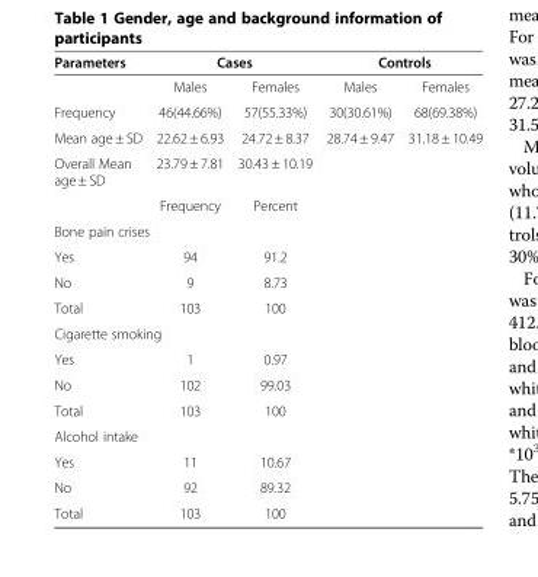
<table><thead><tr><td rowspan="2">Parameters</td><td colspan="2">Cases</td><td colspan="2">Controls</td></tr><tr><td>Males</td><td>Females</td><td>Males</td><td>Females</td></tr></thead><tbody><tr><td>Frequency</td><td>46(44.66%)</td><td>57(55.33%)</td><td>30(30.61%)</td><td>68(69.38%)</td></tr><tr><td>Mean age ± SD</td><td>22.62 ± 6.93</td><td>24.72 ± 8.37</td><td>28.74 ± 9.47</td><td>31.18 ± 10.49</td></tr><tr><td rowspan="2">Overall Mean age ± SD</td><td>23.79 ± 7.81</td><td>30.43 ± 10.19</td><td></td><td></td></tr><tr><td>Frequency</td><td>Percent</td><td></td><td></td></tr><tr><td colspan="5">Bone pain crises</td></tr><tr><td>Yes</td><td>94</td><td>91.2</td><td></td><td></td></tr><tr><td>No</td><td>9</td><td>8.73</td><td></td><td></td></tr><tr><td>Total</td><td>103</td><td>100</td><td></td><td></td></tr><tr><td colspan="5">Cigarette smoking</td></tr><tr><td>Yes</td><td>1</td><td>0.97</td><td></td><td></td></tr><tr><td>No</td><td>102</td><td>99.03</td><td></td><td></td></tr><tr><td>Total</td><td>103</td><td>100</td><td></td><td></td></tr><tr><td colspan="5">Alcohol intake</td></tr><tr><td>Yes</td><td>11</td><td>10.67</td><td></td><td></td></tr><tr><td>No</td><td>92</td><td>89.32</td><td></td><td></td></tr><tr><td>Total</td><td>103</td><td>100</td><td></td><td></td></tr></tbody></table>